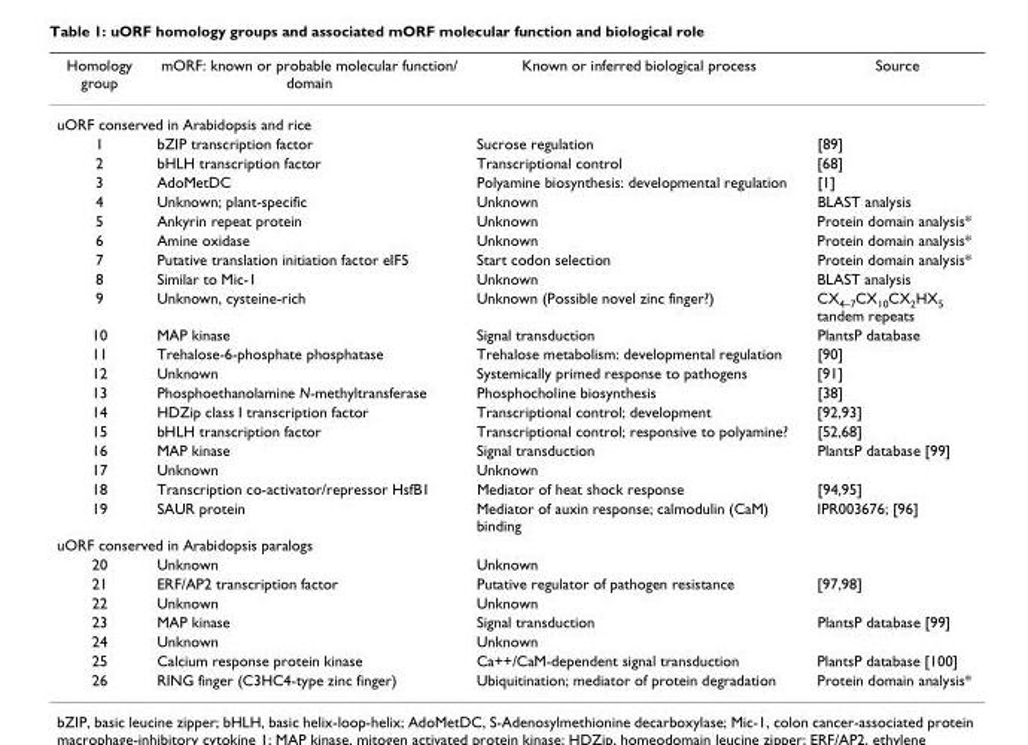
<table><thead><tr><td>Homology group</td><td>mORF: known or probable molecular function/ domain</td><td>Known or inferred biological process</td><td>Source</td></tr></thead><tbody><tr><td colspan="4">uORF conserved in Arabidopsis and rice</td></tr><tr><td>1</td><td>bZIP transcription factor</td><td>Sucrose regulation</td><td>[89]</td></tr><tr><td>2</td><td>bHLH transcription factor</td><td>Transcriptional control</td><td>[68]</td></tr><tr><td>3</td><td>AdoMetDC</td><td>Polyamine biosynthesis: developmental regulation</td><td>[1]</td></tr><tr><td>4</td><td>Unknown; plant-specific</td><td>Unknown</td><td>BLAST analysis</td></tr><tr><td>5</td><td>Ankyrin repeat protein</td><td>Unknown</td><td>Protein domain analysis*</td></tr><tr><td>6</td><td>Amine oxidase</td><td>Unknown</td><td>Protein domain analysis*</td></tr><tr><td>7</td><td>Putative translation initiation factor eIF5</td><td>Start codon selection</td><td>Protein domain analysis*</td></tr><tr><td>8</td><td>Similar to Mic-1</td><td>Unknown</td><td>BLAST analysis</td></tr><tr><td>9</td><td>Unknown, cysteine-rich</td><td>Unknown (Possible novel zinc finger?)</td><td>CX<sub>4–7</sub>CX<sub>10</sub>CX<sub>2</sub>HX<sub>5</sub> tandem repeats</td></tr><tr><td>10</td><td>MAP kinase</td><td>Signal transduction</td><td>PlantsP database</td></tr><tr><td>11</td><td>Trehalose-6-phosphate phosphatase</td><td>Trehalose metabolism: developmental regulation</td><td>[90]</td></tr><tr><td>12</td><td>Unknown</td><td>Systemically primed response to pathogens</td><td>[91]</td></tr><tr><td>13</td><td>Phosphoethanolamine N-methyltransferase</td><td>Phosphocholine biosynthesis</td><td>[38]</td></tr><tr><td>14</td><td>HDZip class I transcription factor</td><td>Transcriptional control; development</td><td>[92,93]</td></tr><tr><td>15</td><td>bHLH transcription factor</td><td>Transcriptional control; responsive to polyamine?</td><td>[52,68]</td></tr><tr><td>16</td><td>MAP kinase</td><td>Signal transduction</td><td>PlantsP database [99]</td></tr><tr><td>17</td><td>Unknown</td><td>Unknown</td><td></td></tr><tr><td>18</td><td>Transcription co-activator/repressor HsfB1</td><td>Mediator of heat shock response</td><td>[94,95]</td></tr><tr><td>19</td><td>SAUR protein</td><td>Mediator of auxin response; calmodulin (CaM) binding</td><td>IPR003676; [96]</td></tr><tr><td colspan="4">uORF conserved in Arabidopsis paralogs</td></tr><tr><td>20</td><td>Unknown</td><td>Unknown</td><td></td></tr><tr><td>21</td><td>ERF/AP2 transcription factor</td><td>Putative regulator of pathogen resistance</td><td>[97,98]</td></tr><tr><td>22</td><td>Unknown</td><td>Unknown</td><td></td></tr><tr><td>23</td><td>MAP kinase</td><td>Signal transduction</td><td>PlantsP database [99]</td></tr><tr><td>24</td><td>Unknown</td><td>Unknown</td><td></td></tr><tr><td>25</td><td>Calcium response protein kinase</td><td>Ca++/CaM-dependent signal transduction</td><td>PlantsP database [100]</td></tr><tr><td>26</td><td>RING finger (C3HC4-type zinc finger)</td><td>Ubiquitination; mediator of protein degradation</td><td>Protein domain analysis*</td></tr></tbody></table>